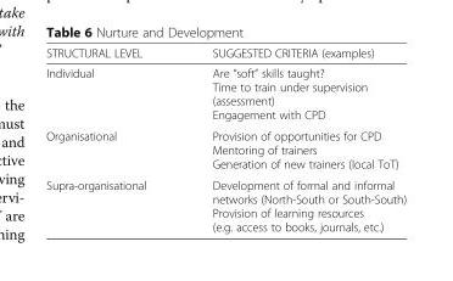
<table><thead><tr><td>STRUCTURAL LEVEL</td><td>SUGGESTED CRITERIA (examples)</td></tr></thead><tbody><tr><td>Individual</td><td>Are “soft” skills taught? Time to train under supervision (assessment) Engagement with CPD</td></tr><tr><td>Organisational</td><td>Provision of opportunities for CPD Mentoring of trainers Generation of new trainers (local ToT)</td></tr><tr><td>Supra-organisational</td><td>Development of formal and informal networks (North-South or South-South) Provision of learning resources (e.g. access to books, journals, etc.)</td></tr></tbody></table>